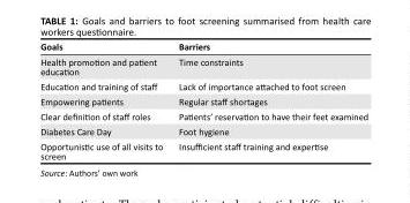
<table><thead><tr><td>Goals</td><td>Barriers</td></tr></thead><tbody><tr><td>Health promotion and patient education</td><td>Time constraints</td></tr><tr><td>Education and training of staff</td><td>Lack of importance attached to foot screen</td></tr><tr><td>Empowering patients</td><td>Regular staff shortages</td></tr><tr><td>Clear definition of staff roles</td><td>Patients’ reservation to have their feet examined</td></tr><tr><td>Diabetes Care Day</td><td>Foot hygiene</td></tr><tr><td>Opportunistic use of all visits to screen</td><td>Insufficient staff training and expertise</td></tr></tbody></table>